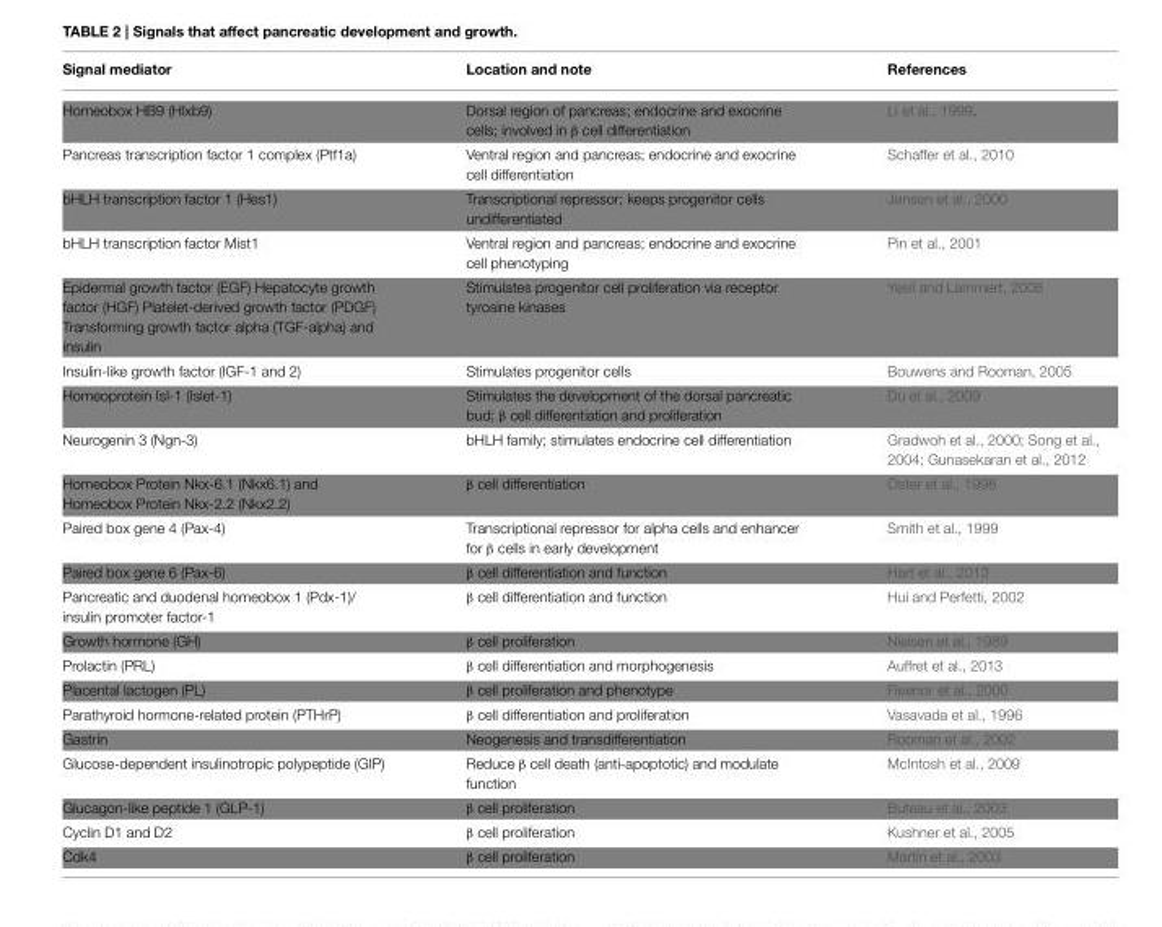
<table><thead><tr><td>Signal mediator</td><td>Location and note</td><td>References</td></tr></thead><tbody><tr><td>Homeobox HB9 (Hlxb9)</td><td>Dorsal region of pancreas; endocrine and exocrine cells; involved in β cell differentiation</td><td>Li et al., 1999.</td></tr><tr><td>Pancreas transcription factor 1 complex (Ptf1a)</td><td>Ventral region and pancreas; endocrine and exocrine cell differentiation</td><td>Schaffer et al., 2010</td></tr><tr><td>bHLH transcription factor 1 (Hes1)</td><td>Transcriptional repressor; keeps progenitor cells undifferentiated</td><td>Jensen et al., 2000</td></tr><tr><td>bHLH transcription factor Mist1</td><td>Ventral region and pancreas; endocrine and exocrine cell phenotyping</td><td>Pin et al., 2001</td></tr><tr><td>Epidermal growth factor (EGF) Hepatocyte growth factor (HGF) Platelet-derived growth factor (PDGF) Transforming growth factor alpha (TGF-alpha) and insulin</td><td>Stimulates progenitor cell proliferation via receptor tyrosine kinases</td><td>Yesil and Lammert, 2008</td></tr><tr><td>Insulin-like growth factor (IGF-1 and 2)</td><td>Stimulates progenitor cells</td><td>Bouwens and Rooman, 2005</td></tr><tr><td>Homeoprotein Isl-1 (Islet-1)</td><td>Stimulates the development of the dorsal pancreatic bud; β cell differentiation and proliferation</td><td>Du et al., 2009</td></tr><tr><td>Neurogenin 3 (Ngn-3)</td><td>bHLH family; stimulates endocrine cell differentiation</td><td>Gradwoh et al., 2000; Song et al., 2004; Gunasekaran et al., 2012</td></tr><tr><td>Homeobox Protein Nkx-6.1 (Nkx6.1) and Homeobox Protein Nkx-2.2 (Nkx2.2)</td><td>β cell differentiation</td><td>Oster et al., 1998</td></tr><tr><td>Paired box gene 4 (Pax-4)</td><td>Transcriptional repressor for alpha cells and enhancer for β cells in early development</td><td>Smith et al., 1999</td></tr><tr><td>Paired box gene 6 (Pax-6)</td><td>β cell differentiation and function</td><td>Hart et al., 2013</td></tr><tr><td>Pancreatic and duodenal homeobox 1 (Pdx-1)/ insulin promoter factor-1</td><td>β cell differentiation and function</td><td>Hui and Perfetti, 2002</td></tr><tr><td>Growth hormone (GH)</td><td>β cell proliferation</td><td>Nielsen et al., 1989</td></tr><tr><td>Prolactin (PRL)</td><td>β cell differentiation and morphogenesis</td><td>Auffret et al., 2013</td></tr><tr><td>Placental lactogen (PL)</td><td>β cell proliferation and phenotype</td><td>Fleenor et al., 2000</td></tr><tr><td>Parathyroid hormone-related protein (PTHrP)</td><td>β cell differentiation and proliferation</td><td>Vasavada et al., 1996</td></tr><tr><td>Gastrin</td><td>Neogenesis and transdifferentiation</td><td>Rooman et al., 2002</td></tr><tr><td>Glucose-dependent insulinotropic polypeptide (GIP)</td><td>Reduce β cell death (anti-apoptotic) and modulate function</td><td>McIntosh et al., 2009</td></tr><tr><td>Glucagon-like peptide 1 (GLP-1)</td><td>β cell proliferation</td><td>Buteau et al., 2003</td></tr><tr><td>Cyclin D1 and D2</td><td>β cell proliferation</td><td>Kushner et al., 2005</td></tr><tr><td>Cdk4</td><td>β cell proliferation</td><td>Martín et al., 2003</td></tr></tbody></table>